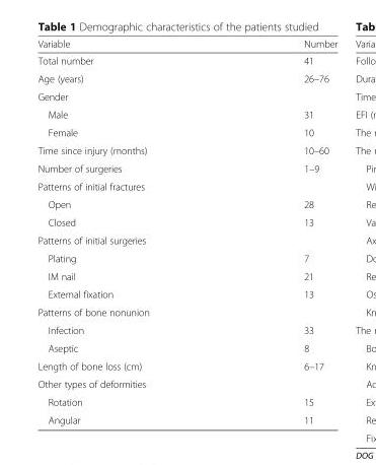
<table><thead><tr><td>Variable</td><td>Number</td></tr></thead><tbody><tr><td>Total number</td><td>41</td></tr><tr><td>Age (years)</td><td>26–76</td></tr><tr><td colspan="2">Gender</td></tr><tr><td>Male</td><td>31</td></tr><tr><td>Female</td><td>10</td></tr><tr><td>Time since injury (months)</td><td>10–60</td></tr><tr><td>Number of surgeries</td><td>1–9</td></tr><tr><td colspan="2">Patterns of initial fractures</td></tr><tr><td>Open</td><td>28</td></tr><tr><td>Closed</td><td>13</td></tr><tr><td colspan="2">Patterns of initial surgeries</td></tr><tr><td>Plating</td><td>7</td></tr><tr><td>IM nail</td><td>21</td></tr><tr><td>External fixation</td><td>13</td></tr><tr><td colspan="2">Patterns of bone nonunion</td></tr><tr><td>Infection</td><td>33</td></tr><tr><td>Aseptic</td><td>8</td></tr><tr><td>Length of bone loss (cm)</td><td>6–17</td></tr><tr><td colspan="2">Other types of deformities</td></tr><tr><td>Rotation</td><td>15</td></tr><tr><td>Angular</td><td>11</td></tr></tbody></table>